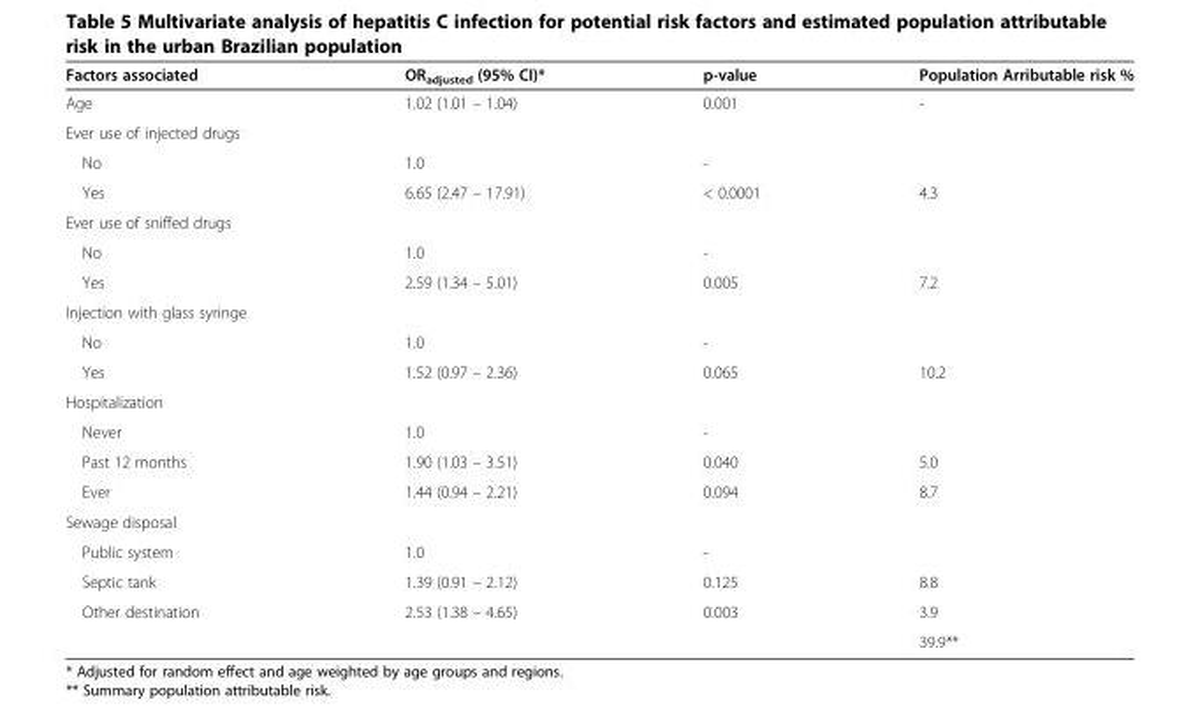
<table><thead><tr><td>Factors associated</td><td>OR<sub>adjusted</sub> (95% CI)*</td><td>p-value</td><td>Population Arributable risk %</td></tr></thead><tbody><tr><td>Age</td><td>1.02 (1.01 – 1.04)</td><td>0.001</td><td>-</td></tr><tr><td colspan="4">Ever use of injected drugs</td></tr><tr><td>No</td><td>1.0</td><td>-</td><td></td></tr><tr><td>Yes</td><td>6.65 (2.47 – 17.91)</td><td>&lt; 0.0001</td><td>4.3</td></tr><tr><td colspan="4">Ever use of sniffed drugs</td></tr><tr><td>No</td><td>1.0</td><td>-</td><td></td></tr><tr><td>Yes</td><td>2.59 (1.34 – 5.01)</td><td>0.005</td><td>7.2</td></tr><tr><td colspan="4">Injection with glass syringe</td></tr><tr><td>No</td><td>1.0</td><td>-</td><td></td></tr><tr><td>Yes</td><td>1.52 (0.97 – 2.36)</td><td>0.065</td><td>10.2</td></tr><tr><td colspan="4">Hospitalization</td></tr><tr><td>Never</td><td>1.0</td><td>-</td><td></td></tr><tr><td>Past 12 months</td><td>1.90 (1.03 – 3.51)</td><td>0.040</td><td>5.0</td></tr><tr><td>Ever</td><td>1.44 (0.94 – 2.21)</td><td>0.094</td><td>8.7</td></tr><tr><td colspan="4">Sewage disposal</td></tr><tr><td>Public system</td><td>1.0</td><td>-</td><td></td></tr><tr><td>Septic tank</td><td>1.39 (0.91 – 2.12)</td><td>0.125</td><td>8.8</td></tr><tr><td rowspan="2">Other destination</td><td>2.53 (1.38 – 4.65)</td><td>0.003</td><td>3.9</td></tr><tr><td></td><td></td><td>39.9**</td></tr></tbody></table>